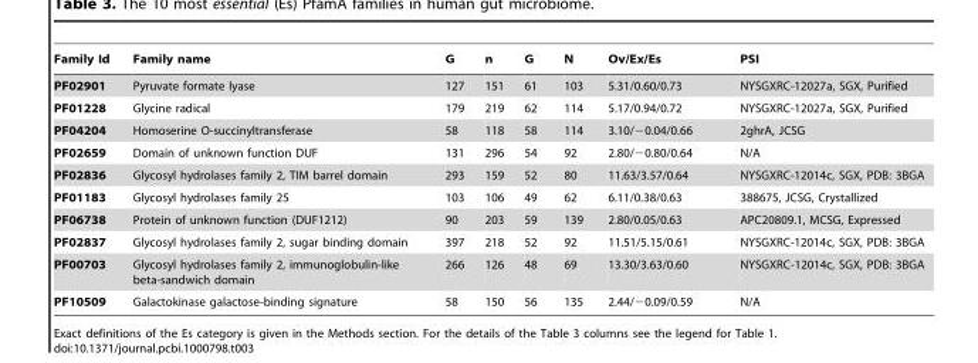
<table><thead><tr><td>Family Id</td><td>Family name</td><td>G</td><td>n</td><td>G</td><td>N</td><td>Ov/Ex/Es</td><td>PSI</td></tr></thead><tbody><tr><td>PF02901</td><td>Pyruvate formate lyase</td><td>127</td><td>151</td><td>61</td><td>103</td><td>5.31/0.60/0.73</td><td>NYSGXRC-12027a, SGX, Purified</td></tr><tr><td>PF01228</td><td>Glycine radical</td><td>179</td><td>219</td><td>62</td><td>114</td><td>5.17/0.94/0.72</td><td>NYSGXRC-12027a, SGX, Purified</td></tr><tr><td>PF04204</td><td>Homoserine O-succinyltransferase</td><td>58</td><td>118</td><td>58</td><td>114</td><td>3.10/−0.04/0.66</td><td>2ghrA, JCSG</td></tr><tr><td>PF02659</td><td>Domain of unknown function DUF</td><td>131</td><td>296</td><td>54</td><td>92</td><td>2.80/−0.80/0.64</td><td>N/A</td></tr><tr><td>PF02836</td><td>Glycosyl hydrolases family 2, TIM barrel domain</td><td>293</td><td>159</td><td>52</td><td>80</td><td>11.63/3.57/0.64</td><td>NYSGXRC-12014c, SGX, PDB: 3BGA</td></tr><tr><td>PF01183</td><td>Glycosyl hydrolases family 25</td><td>103</td><td>106</td><td>49</td><td>62</td><td>6.11/0.38/0.63</td><td>388675, JCSG, Crystallized</td></tr><tr><td>PF06738</td><td>Protein of unknown function (DUF1212)</td><td>90</td><td>203</td><td>59</td><td>139</td><td>2.80/0.05/0.63</td><td>APC20809.1, MCSG, Expressed</td></tr><tr><td>PF02837</td><td>Glycosyl hydrolases family 2, sugar binding domain</td><td>397</td><td>218</td><td>52</td><td>92</td><td>11.51/5.15/0.61</td><td>NYSGXRC-12014c, SGX, PDB: 3BGA</td></tr><tr><td>PF00703</td><td>Glycosyl hydrolases family 2, immunoglobulin-like beta-sandwich domain</td><td>266</td><td>126</td><td>48</td><td>69</td><td>13.30/3.63/0.60</td><td>NYSGXRC-12014c, SGX, PDB: 3BGA</td></tr><tr><td>PF10509</td><td>Galactokinase galactose-binding signature</td><td>58</td><td>150</td><td>56</td><td>135</td><td>2.44/−0.09/0.59</td><td>N/A</td></tr></tbody></table>